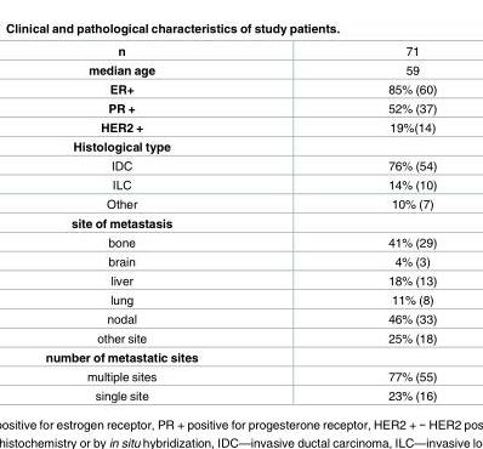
<table><tbody><tr><td>n</td><td>71</td></tr><tr><td>median age</td><td>59</td></tr><tr><td>ER+</td><td>85% (60)</td></tr><tr><td>PR +</td><td>52% (37)</td></tr><tr><td>HER2 +</td><td>19%(14)</td></tr><tr><td colspan="2">Histological type</td></tr><tr><td>IDC</td><td>76% (54)</td></tr><tr><td>ILC</td><td>14% (10)</td></tr><tr><td>Other</td><td>10% (7)</td></tr><tr><td colspan="2">site of metastasis</td></tr><tr><td>bone</td><td>41% (29)</td></tr><tr><td>brain</td><td>4% (3)</td></tr><tr><td>liver</td><td>18% (13)</td></tr><tr><td>lung</td><td>11% (8)</td></tr><tr><td>nodal</td><td>46% (33)</td></tr><tr><td>other site</td><td>25% (18)</td></tr><tr><td colspan="2">number of metastatic sites</td></tr><tr><td>multiple sites</td><td>77% (55)</td></tr><tr><td>single site</td><td>23% (16)</td></tr></tbody></table>